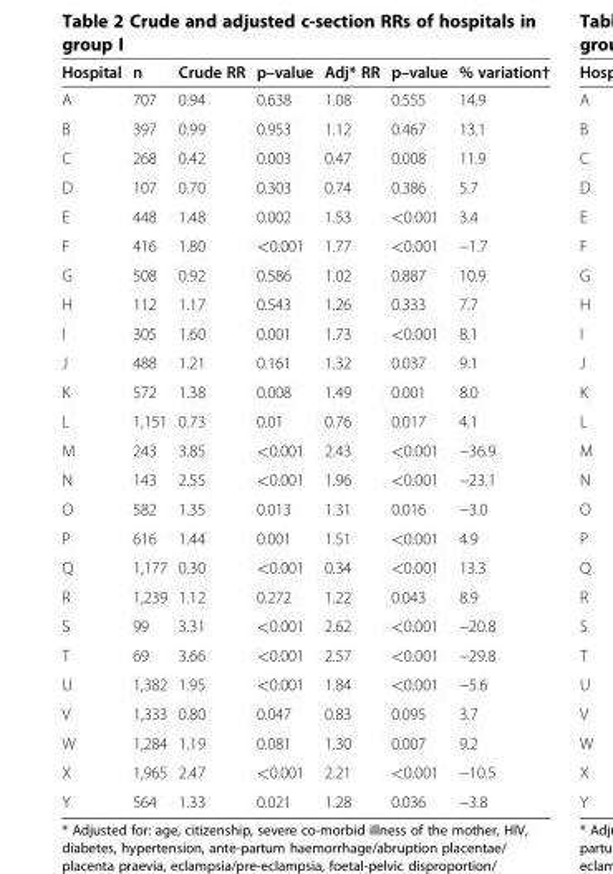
<table><thead><tr><td>Hospital</td><td>n</td><td>Crude RR</td><td>p–value</td><td>Adj* RR</td><td>p–value</td><td>% variation†</td></tr></thead><tbody><tr><td>A</td><td>707</td><td>0.94</td><td>0.638</td><td>1.08</td><td>0.555</td><td>14.9</td></tr><tr><td>B</td><td>397</td><td>0.99</td><td>0.953</td><td>1.12</td><td>0.467</td><td>13.1</td></tr><tr><td>C</td><td>268</td><td>0.42</td><td>0.003</td><td>0.47</td><td>0.008</td><td>11.9</td></tr><tr><td>D</td><td>107</td><td>0.70</td><td>0.303</td><td>0.74</td><td>0.386</td><td>5.7</td></tr><tr><td>E</td><td>448</td><td>1.48</td><td>0.002</td><td>1.53</td><td>&lt;0.001</td><td>3.4</td></tr><tr><td>F</td><td>416</td><td>1.80</td><td>&lt;0.001</td><td>1.77</td><td>&lt;0.001</td><td>−1.7</td></tr><tr><td>G</td><td>508</td><td>0.92</td><td>0.586</td><td>1.02</td><td>0.887</td><td>10.9</td></tr><tr><td>H</td><td>112</td><td>1.17</td><td>0.543</td><td>1.26</td><td>0.333</td><td>7.7</td></tr><tr><td>I</td><td>305</td><td>1.60</td><td>0.001</td><td>1.73</td><td>&lt;0.001</td><td>8.1</td></tr><tr><td>J</td><td>488</td><td>1.21</td><td>0.161</td><td>1.32</td><td>0.037</td><td>9.1</td></tr><tr><td>K</td><td>572</td><td>1.38</td><td>0.008</td><td>1.49</td><td>0.001</td><td>8.0</td></tr><tr><td>L</td><td>1,151</td><td>0.73</td><td>0.01</td><td>0.76</td><td>0.017</td><td>4.1</td></tr><tr><td>M</td><td>243</td><td>3.85</td><td>&lt;0.001</td><td>2.43</td><td>&lt;0.001</td><td>−36.9</td></tr><tr><td>N</td><td>143</td><td>2.55</td><td>&lt;0.001</td><td>1.96</td><td>&lt;0.001</td><td>−23.1</td></tr><tr><td>O</td><td>582</td><td>1.35</td><td>0.013</td><td>1.31</td><td>0.016</td><td>−3.0</td></tr><tr><td>P</td><td>616</td><td>1.44</td><td>0.001</td><td>1.51</td><td>&lt;0.001</td><td>4.9</td></tr><tr><td>Q</td><td>1,177</td><td>0.30</td><td>&lt;0.001</td><td>0.34</td><td>&lt;0.001</td><td>13.3</td></tr><tr><td>R</td><td>1,239</td><td>1.12</td><td>0.272</td><td>1.22</td><td>0.043</td><td>8.9</td></tr><tr><td>S</td><td>99</td><td>3.31</td><td>&lt;0.001</td><td>2.62</td><td>&lt;0.001</td><td>−20.8</td></tr><tr><td>T</td><td>69</td><td>3.66</td><td>&lt;0.001</td><td>2.57</td><td>&lt;0.001</td><td>−29.8</td></tr><tr><td>U</td><td>1,382</td><td>1.95</td><td>&lt;0.001</td><td>1.84</td><td>&lt;0.001</td><td>−5.6</td></tr><tr><td>V</td><td>1,333</td><td>0.80</td><td>0.047</td><td>0.83</td><td>0.095</td><td>3.7</td></tr><tr><td>W</td><td>1,284</td><td>1.19</td><td>0.081</td><td>1.30</td><td>0.007</td><td>9.2</td></tr><tr><td>X</td><td>1,965</td><td>2.47</td><td>&lt;0.001</td><td>2.21</td><td>&lt;0.001</td><td>−10.5</td></tr><tr><td>Y</td><td>564</td><td>1.33</td><td>0.021</td><td>1.28</td><td>0.036</td><td>−3.8</td></tr></tbody></table>